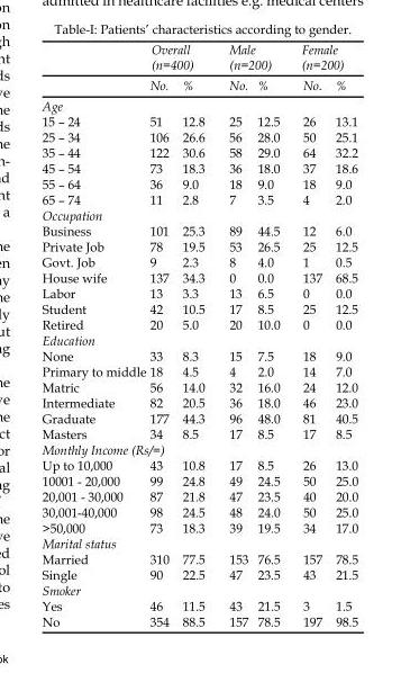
<table><thead><tr><td rowspan="2"></td><td colspan="2">Overall (n=400)</td><td colspan="2">Male (n=200)</td><td colspan="2">Female (n=200)</td></tr><tr><td>No.</td><td>%</td><td>No.</td><td>%</td><td>No.</td><td>%</td></tr><tr><td colspan="7">Age</td></tr></thead><tbody><tr><td>15 – 24</td><td>51</td><td>12.8</td><td>25</td><td>12.5</td><td>26</td><td>13.1</td></tr><tr><td>25 – 34</td><td>106</td><td>26.6</td><td>56</td><td>28.0</td><td>50</td><td>25.1</td></tr><tr><td>35 – 44</td><td>122</td><td>30.6</td><td>58</td><td>29.0</td><td>64</td><td>32.2</td></tr><tr><td>45 – 54</td><td>73</td><td>18.3</td><td>36</td><td>18.0</td><td>37</td><td>18.6</td></tr><tr><td>55 – 64</td><td>36</td><td>9.0</td><td>18</td><td>9.0</td><td>18</td><td>9.0</td></tr><tr><td>65 – 74</td><td>11</td><td>2.8</td><td>7</td><td>3.5</td><td>4</td><td>2.0</td></tr><tr><td colspan="7">Occupation</td></tr><tr><td>Business</td><td>101</td><td>25.3</td><td>89</td><td>44.5</td><td>12</td><td>6.0</td></tr><tr><td>Private Job</td><td>78</td><td>19.5</td><td>53</td><td>26.5</td><td>25</td><td>12.5</td></tr><tr><td>Govt. Job</td><td>9</td><td>2.3</td><td>8</td><td>4.0</td><td>1</td><td>0.5</td></tr><tr><td>House wife</td><td>137</td><td>34.3</td><td>0</td><td>0.0</td><td>137</td><td>68.5</td></tr><tr><td>Labor</td><td>13</td><td>3.3</td><td>13</td><td>6.5</td><td>0</td><td>0.0</td></tr><tr><td>Student</td><td>42</td><td>10.5</td><td>17</td><td>8.5</td><td>25</td><td>12.5</td></tr><tr><td>Retired</td><td>20</td><td>5.0</td><td>20</td><td>10.0</td><td>0</td><td>0.0</td></tr><tr><td colspan="7">Education</td></tr><tr><td>None</td><td>33</td><td>8.3</td><td>15</td><td>7.5</td><td>18</td><td>9.0</td></tr><tr><td>Primary to middle</td><td>18</td><td>4.5</td><td>4</td><td>2.0</td><td>14</td><td>7.0</td></tr><tr><td>Matric</td><td>56</td><td>14.0</td><td>32</td><td>16.0</td><td>24</td><td>12.0</td></tr><tr><td>Intermediate</td><td>82</td><td>20.5</td><td>36</td><td>18.0</td><td>46</td><td>23.0</td></tr><tr><td>Graduate</td><td>177</td><td>44.3</td><td>96</td><td>48.0</td><td>81</td><td>40.5</td></tr><tr><td>Masters</td><td>34</td><td>8.5</td><td>17</td><td>8.5</td><td>17</td><td>8.5</td></tr><tr><td colspan="7">Monthly Income (Rs/=)</td></tr><tr><td>Up to 10,000</td><td>43</td><td>10.8</td><td>17</td><td>8.5</td><td>26</td><td>13.0</td></tr><tr><td>10001 - 20,000</td><td>99</td><td>24.8</td><td>49</td><td>24.5</td><td>50</td><td>25.0</td></tr><tr><td>20,001 - 30,000</td><td>87</td><td>21.8</td><td>47</td><td>23.5</td><td>40</td><td>20.0</td></tr><tr><td>30,001-40,000</td><td>98</td><td>24.5</td><td>48</td><td>24.0</td><td>50</td><td>25.0</td></tr><tr><td>&gt;50,000</td><td>73</td><td>18.3</td><td>39</td><td>19.5</td><td>34</td><td>17.0</td></tr><tr><td colspan="7">Marital status</td></tr><tr><td>Married</td><td>310</td><td>77.5</td><td>153</td><td>76.5</td><td>157</td><td>78.5</td></tr><tr><td>Single</td><td>90</td><td>22.5</td><td>47</td><td>23.5</td><td>43</td><td>21.5</td></tr><tr><td colspan="7">Smoker</td></tr><tr><td>Yes</td><td>46</td><td>11.5</td><td>43</td><td>21.5</td><td>3</td><td>1.5</td></tr><tr><td>No</td><td>354</td><td>88.5</td><td>157</td><td>78.5</td><td>197</td><td>98.5</td></tr></tbody></table>